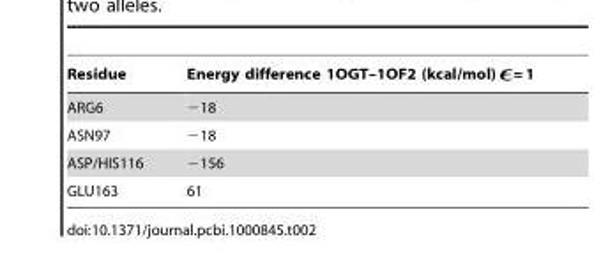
<table><thead><tr><td>Residue</td><td>Energy difference 1OGT–1OF2 (kcal/mol) = 1</td></tr></thead><tbody><tr><td>ARG6</td><td>−18</td></tr><tr><td>ASN97</td><td>−18</td></tr><tr><td>ASP/HIS116</td><td>−156</td></tr><tr><td>GLU163</td><td>61</td></tr></tbody></table>